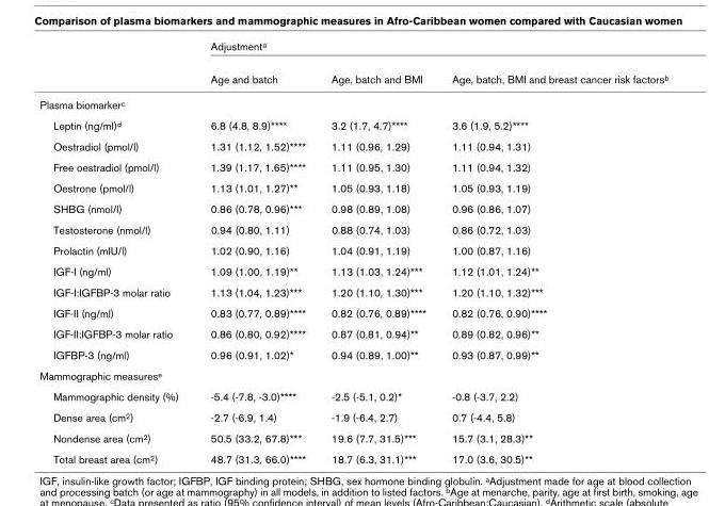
<table><thead><tr><td rowspan="2"></td><td colspan="3">Adjustment<sup>a</sup></td></tr><tr><td>Age and batch</td><td>Age, batch and BMI</td><td>Age, batch, BMI and breast cancer risk factors<sup>b</sup></td></tr></thead><tbody><tr><td colspan="4">Plasma biomarker<sup>c</sup></td></tr><tr><td>Leptin (ng/ml)<sup>d</sup></td><td>6.8 (4.8, 8.9)****</td><td>3.2 (1.7, 4.7)****</td><td>3.6 (1.9, 5.2)****</td></tr><tr><td>Oestradiol (pmol/l)</td><td>1.31 (1.12, 1.52)****</td><td>1.11 (0.96, 1.29)</td><td>1.11 (0.94, 1.31)</td></tr><tr><td>Free oestradiol (pmol/l)</td><td>1.39 (1.17, 1.65)****</td><td>1.11 (0.95, 1.30)</td><td>1.11 (0.94, 1.32)</td></tr><tr><td>Oestrone (pmol/l)</td><td>1.13 (1.01, 1.27)**</td><td>1.05 (0.93, 1.18)</td><td>1.05 (0.93, 1.19)</td></tr><tr><td>SHBG (nmol/l)</td><td>0.86 (0.78, 0.96)***</td><td>0.98 (0.89, 1.08)</td><td>0.96 (0.86, 1.07)</td></tr><tr><td>Testosterone (nmol/l)</td><td>0.94 (0.80, 1.11)</td><td>0.88 (0.74, 1.03)</td><td>0.86 (0.72, 1.03)</td></tr><tr><td>Prolactin (mIU/l)</td><td>1.02 (0.90, 1.16)</td><td>1.04 (0.91, 1.19)</td><td>1.00 (0.87, 1.16)</td></tr><tr><td>IGF-I (ng/ml)</td><td>1.09 (1.00, 1.19)**</td><td>1.13 (1.03, 1.24)***</td><td>1.12 (1.01, 1.24)**</td></tr><tr><td>IGF-I:IGFBP-3 molar ratio</td><td>1.13 (1.04, 1.23)***</td><td>1.20 (1.10, 1.30)***</td><td>1.20 (1.10, 1.32)***</td></tr><tr><td>IGF-II (ng/ml)</td><td>0.83 (0.77, 0.89)****</td><td>0.82 (0.76, 0.89)****</td><td>0.82 (0.76, 0.90)****</td></tr><tr><td>IGF-II:IGFBP-3 molar ratio</td><td>0.86 (0.80, 0.92)****</td><td>0.87 (0.81, 0.94)**</td><td>0.89 (0.82, 0.96)**</td></tr><tr><td>IGFBP-3 (ng/ml)</td><td>0.96 (0.91, 1.02)*</td><td>0.94 (0.89, 1.00)**</td><td>0.93 (0.87, 0.99)**</td></tr><tr><td colspan="4">Mammographic measures<sup>e</sup></td></tr><tr><td>Mammographic density (%)</td><td>-5.4 (-7.8, -3.0)****</td><td>-2.5 (-5.1, 0.2)*</td><td>-0.8 (-3.7, 2.2)</td></tr><tr><td>Dense area (cm<sup>2</sup>)</td><td>-2.7 (-6.9, 1.4)</td><td>-1.9 (-6.4, 2.7)</td><td>0.7 (-4.4, 5.8)</td></tr><tr><td>Nondense area (cm<sup>2</sup>)</td><td>50.5 (33.2, 67.8)***</td><td>19.6 (7.7, 31.5)***</td><td>15.7 (3.1, 28.3)**</td></tr><tr><td>Total breast area (cm<sup>2</sup>)</td><td>48.7 (31.3, 66.0)****</td><td>18.7 (6.3, 31.1)***</td><td>17.0 (3.6, 30.5)**</td></tr></tbody></table>